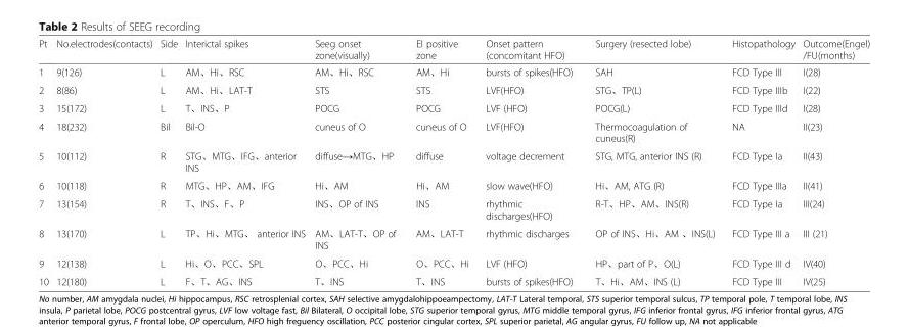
<table><thead><tr><td>Pt</td><td>No.electrodes(contacts)</td><td>Side</td><td>Interictal spikes</td><td>Seeg onset zone(visually)</td><td>EI positive zone</td><td>Onset pattern (concomitant HFO)</td><td>Surgery (resected lobe)</td><td>Histopathology</td><td>Outcome(Engel) /FU(months)</td></tr></thead><tbody><tr><td>1</td><td>9(126)</td><td>L</td><td>AM、Hi、RSC</td><td>AM、Hi、RSC</td><td>AM、Hi</td><td>bursts of spikes(HFO)</td><td>SAH</td><td>FCD Type III</td><td>I(28)</td></tr><tr><td>2</td><td>8(86)</td><td>L</td><td>AM、Hi、LAT-T</td><td>STS</td><td>STS</td><td>LVF(HFO)</td><td>STG、TP(L)</td><td>FCD Type IIIb</td><td>I(22)</td></tr><tr><td>3</td><td>15(172)</td><td>L</td><td>T、INS、P</td><td>POCG</td><td>POCG</td><td>LVF (HFO)</td><td>POCG(L)</td><td>FCD Type IIId</td><td>I(28)</td></tr><tr><td>4</td><td>18(232)</td><td>Bil</td><td>Bil-O</td><td>cuneus of O</td><td>cuneus of O</td><td>LVF(HFO)</td><td>Thermocoagulation of cuneus(R)</td><td>NA</td><td>II(23)</td></tr><tr><td>5</td><td>10(112)</td><td>R</td><td>STG、MTG、IFG、anterior INS</td><td>diffuse→MTG、HP</td><td>diffuse</td><td>voltage decrement</td><td>STG, MTG, anterior INS (R)</td><td>FCD Type Ia</td><td>II(43)</td></tr><tr><td>6</td><td>10(118)</td><td>R</td><td>MTG、HP、AM、IFG</td><td>Hi、AM</td><td>Hi、AM</td><td>slow wave(HFO)</td><td>Hi、AM, ATG (R)</td><td>FCD Type IIIa</td><td>II(41)</td></tr><tr><td>7</td><td>13(154)</td><td>R</td><td>T、INS、F、P</td><td>INS、OP of INS</td><td>INS</td><td>rhythmic discharges(HFO)</td><td>R-T、HP、AM、INS(R)</td><td>FCD Type Ia</td><td>III(24)</td></tr><tr><td>8</td><td>13(170)</td><td>L</td><td>TP、Hi、MTG、 anterior INS</td><td>AM、LAT-T、OP of INS</td><td>AM、LAT-T</td><td>rhythmic discharges</td><td>OP of INS、Hi、AM 、INS(L)</td><td>FCD Type III a</td><td>III (21)</td></tr><tr><td>9</td><td>12(138)</td><td>L</td><td>Hi、O、PCC、SPL</td><td>O、PCC、Hi</td><td>O、PCC、Hi</td><td>LVF (HFO)</td><td>HP、part of P、O(L)</td><td>FCD Type III d</td><td>IV(40)</td></tr><tr><td>10</td><td>12(180)</td><td>L</td><td>F、T、AG、INS</td><td>T、INS</td><td>T、INS</td><td>bursts of spikes(HFO)</td><td>T、Hi、AM、INS (L)</td><td>FCD Type III</td><td>IV(25)</td></tr></tbody></table>